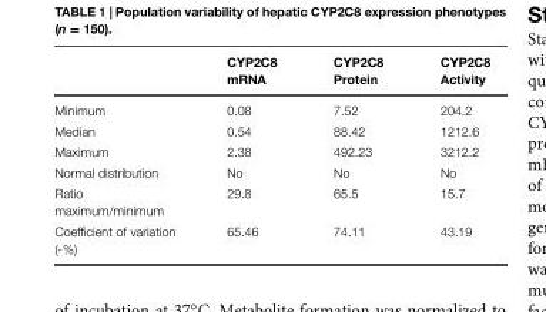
<table><thead><tr><td></td><td>CYP2C8 mRNA</td><td>CYP2C8 Protein</td><td>CYP2C8 Activity</td></tr></thead><tbody><tr><td>Minimum</td><td>0.08</td><td>7.52</td><td>204.2</td></tr><tr><td>Median</td><td>0.54</td><td>88.42</td><td>1212.6</td></tr><tr><td>Maximum</td><td>2.38</td><td>492.23</td><td>3212.2</td></tr><tr><td>Normal distribution</td><td>No</td><td>No</td><td>No</td></tr><tr><td>Ratio maximum/minimum</td><td>29.8</td><td>65.5</td><td>15.7</td></tr><tr><td>Coefficient of variation (-%)</td><td>65.46</td><td>74.11</td><td>43.19</td></tr></tbody></table>